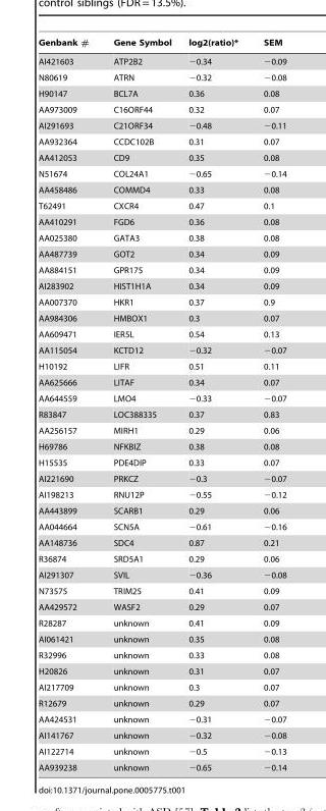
<table><thead><tr><td>Genbank #</td><td>Gene Symbol</td><td>log2(ratio)*</td><td>SEM</td></tr></thead><tbody><tr><td>AI421603</td><td>ATP2B2</td><td>−0.34</td><td>−0.09</td></tr><tr><td>N80619</td><td>ATRN</td><td>−0.32</td><td>−0.08</td></tr><tr><td>H90147</td><td>BCL7A</td><td>0.36</td><td>0.08</td></tr><tr><td>AA973009</td><td>C16ORF44</td><td>0.32</td><td>0.07</td></tr><tr><td>AI291693</td><td>C21ORF34</td><td>−0.48</td><td>−0.11</td></tr><tr><td>AA932364</td><td>CCDC102B</td><td>0.31</td><td>0.07</td></tr><tr><td>AA412053</td><td>CD9</td><td>0.35</td><td>0.08</td></tr><tr><td>N51674</td><td>COL24A1</td><td>−0.65</td><td>−0.14</td></tr><tr><td>AA458486</td><td>COMMD4</td><td>0.33</td><td>0.08</td></tr><tr><td>T62491</td><td>CXCR4</td><td>0.47</td><td>0.1</td></tr><tr><td>AA410291</td><td>FGD6</td><td>0.36</td><td>0.08</td></tr><tr><td>AA025380</td><td>GATA3</td><td>0.38</td><td>0.08</td></tr><tr><td>AA487739</td><td>GOT2</td><td>0.34</td><td>0.09</td></tr><tr><td>AA884151</td><td>GPR175</td><td>0.34</td><td>0.09</td></tr><tr><td>AI283902</td><td>HIST1H1A</td><td>0.34</td><td>0.09</td></tr><tr><td>AA007370</td><td>HKR1</td><td>0.37</td><td>0.9</td></tr><tr><td>AA984306</td><td>HMBOX1</td><td>0.3</td><td>0.07</td></tr><tr><td>AA609471</td><td>IER5L</td><td>0.54</td><td>0.13</td></tr><tr><td>AA115054</td><td>KCTD12</td><td>−0.32</td><td>−0.07</td></tr><tr><td>H10192</td><td>LIFR</td><td>0.51</td><td>0.11</td></tr><tr><td>AA625666</td><td>LITAF</td><td>0.34</td><td>0.07</td></tr><tr><td>AA644559</td><td>LMO4</td><td>−0.33</td><td>−0.07</td></tr><tr><td>R83847</td><td>LOC388335</td><td>0.37</td><td>0.83</td></tr><tr><td>AA256157</td><td>MIRH1</td><td>0.29</td><td>0.06</td></tr><tr><td>H69786</td><td>NFKBIZ</td><td>0.38</td><td>0.08</td></tr><tr><td>H15535</td><td>PDE4DIP</td><td>0.33</td><td>0.07</td></tr><tr><td>AI221690</td><td>PRKCZ</td><td>−0.3</td><td>−0.07</td></tr><tr><td>AI198213</td><td>RNU12P</td><td>−0.55</td><td>−0.12</td></tr><tr><td>AA443899</td><td>SCARB1</td><td>0.29</td><td>0.06</td></tr><tr><td>AA044664</td><td>SCN5A</td><td>−0.61</td><td>−0.16</td></tr><tr><td>AA148736</td><td>SDC4</td><td>0.87</td><td>0.21</td></tr><tr><td>R36874</td><td>SRD5A1</td><td>0.29</td><td>0.06</td></tr><tr><td>AI291307</td><td>SVIL</td><td>−0.36</td><td>−0.08</td></tr><tr><td>N73575</td><td>TRIM25</td><td>0.41</td><td>0.09</td></tr><tr><td>AA429572</td><td>WASF2</td><td>0.29</td><td>0.07</td></tr><tr><td>R28287</td><td>unknown</td><td>0.41</td><td>0.09</td></tr><tr><td>AI061421</td><td>unknown</td><td>0.35</td><td>0.08</td></tr><tr><td>R32996</td><td>unknown</td><td>0.33</td><td>0.08</td></tr><tr><td>H20826</td><td>unknown</td><td>0.31</td><td>0.07</td></tr><tr><td>AI217709</td><td>unknown</td><td>0.3</td><td>0.07</td></tr><tr><td>R12679</td><td>unknown</td><td>0.29</td><td>0.07</td></tr><tr><td>AA424531</td><td>unknown</td><td>−0.31</td><td>−0.07</td></tr><tr><td>AI141767</td><td>unknown</td><td>−0.32</td><td>−0.08</td></tr><tr><td>AI122714</td><td>unknown</td><td>−0.5</td><td>−0.13</td></tr><tr><td>AA939238</td><td>unknown</td><td>−0.65</td><td>−0.14</td></tr></tbody></table>